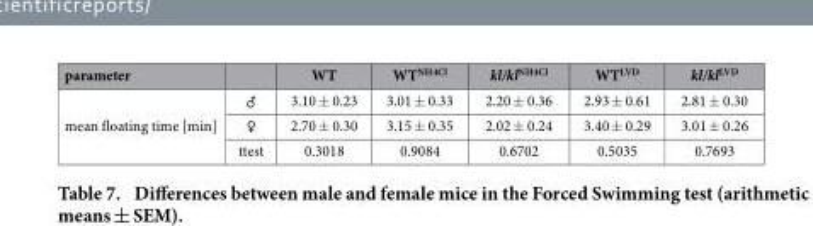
<table><thead><tr><td>parameter</td><td></td><td>WT</td><td>WT<sup>NH4Cl</sup></td><td>kl/kl<sup>NH4Cl</sup></td><td>WT<sup>LVD</sup></td><td>kl/kl<sup>LVD</sup></td></tr></thead><tbody><tr><td rowspan="3">mean floating time [min]</td><td>♂</td><td>3.10 ± 0.23</td><td>3.01 ± 0.33</td><td>2.20 ± 0.36</td><td>2.93 ± 0.61</td><td>2.81 ± 0.30</td></tr><tr><td>♀</td><td>2.70 ± 0.30</td><td>3.15 ± 0.35</td><td>2.02 ± 0.24</td><td>3.40 ± 0.29</td><td>3.01 ± 0.26</td></tr><tr><td>ttest</td><td>0.3018</td><td>0.9084</td><td>0.6702</td><td>0.5035</td><td>0.7693</td></tr></tbody></table>